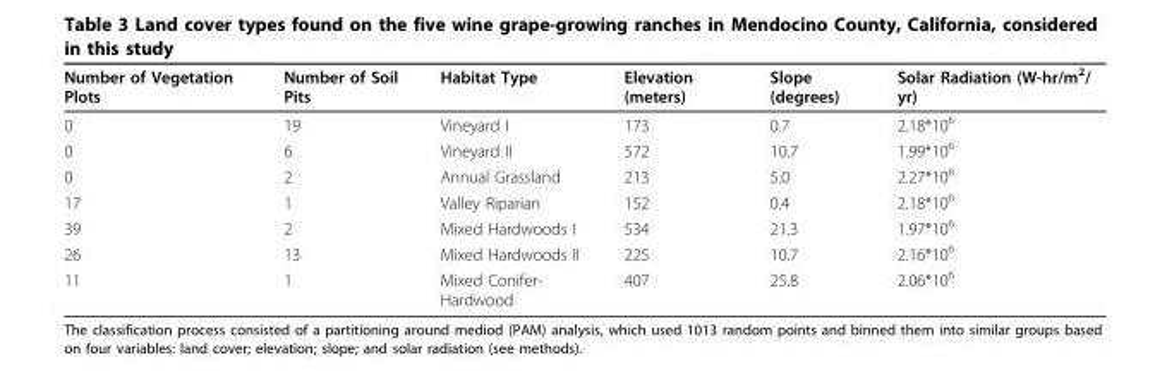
<table><thead><tr><td>Number of Vegetation Plots</td><td>Number of Soil Pits</td><td>Habitat Type</td><td>Elevation (meters)</td><td>Slope (degrees)</td><td>Solar Radiation (W-hr/m<sup>2</sup>/ yr)</td></tr></thead><tbody><tr><td>0</td><td>19</td><td>Vineyard I</td><td>173</td><td>0.7</td><td>2.18*10<sup>6</sup></td></tr><tr><td>0</td><td>6</td><td>Vineyard II</td><td>572</td><td>10.7</td><td>1.99*10<sup>6</sup></td></tr><tr><td>0</td><td>2</td><td>Annual Grassland</td><td>213</td><td>5.0</td><td>2.27*10<sup>6</sup></td></tr><tr><td>17</td><td>1</td><td>Valley Riparian</td><td>152</td><td>0.4</td><td>2.18*10<sup>6</sup></td></tr><tr><td>39</td><td>2</td><td>Mixed Hardwoods I</td><td>534</td><td>21.3</td><td>1.97*10<sup>6</sup></td></tr><tr><td>26</td><td>13</td><td>Mixed Hardwoods II</td><td>225</td><td>10.7</td><td>2.16*10<sup>6</sup></td></tr><tr><td>11</td><td>1</td><td>Mixed Conifer- Hardwood</td><td>407</td><td>25.8</td><td>2.06*10<sup>6</sup></td></tr></tbody></table>